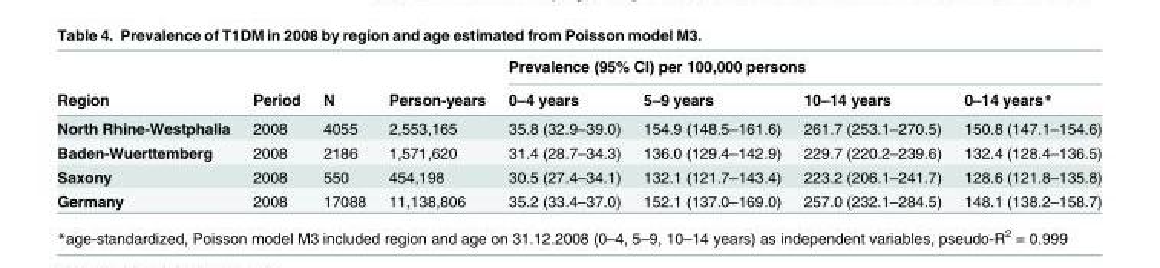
<table><thead><tr><td rowspan="2">Region</td><td rowspan="2">Period</td><td rowspan="2">N</td><td rowspan="2">Person-years</td><td colspan="4">Prevalence (95% CI) per 100,000 persons</td></tr><tr><td>0–4 years</td><td>5–9 years</td><td>10–14 years</td><td>0–14 years*</td></tr></thead><tbody><tr><td>North Rhine-Westphalia</td><td>2008</td><td>4055</td><td>2,553,165</td><td>35.8 (32.9–39.0)</td><td>154.9 (148.5–161.6)</td><td>261.7 (253.1–270.5)</td><td>150.8 (147.1–154.6)</td></tr><tr><td>Baden-Wuerttemberg</td><td>2008</td><td>2186</td><td>1,571,620</td><td>31.4 (28.7–34.3)</td><td>136.0 (129.4–142.9)</td><td>229.7 (220.2–239.6)</td><td>132.4 (128.4–136.5)</td></tr><tr><td>Saxony</td><td>2008</td><td>550</td><td>454,198</td><td>30.5 (27.4–34.1)</td><td>132.1 (121.7–143.4)</td><td>223.2 (206.1–241.7)</td><td>128.6 (121.8–135.8)</td></tr><tr><td>Germany</td><td>2008</td><td>17088</td><td>11,138,806</td><td>35.2 (33.4–37.0)</td><td>152.1 (137.0–169.0)</td><td>257.0 (232.1–284.5)</td><td>148.1 (138.2–158.7)</td></tr></tbody></table>